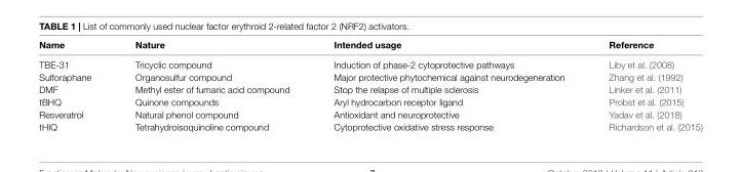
<table><thead><tr><td>Name</td><td>Nature</td><td>Intended usage</td><td>Reference</td></tr></thead><tbody><tr><td>TBE-31</td><td>Tricyclic compound</td><td>Induction of phase-2 cytoprotective pathways</td><td>Liby et al. (2008)</td></tr><tr><td>Sulforaphane</td><td>Organosulfur compound</td><td>Major protective phytochemical against neurodegeneration</td><td>Zhang et al. (1992)</td></tr><tr><td>DMF</td><td>Methyl ester of fumaric acid compound</td><td>Stop the relapse of multiple sclerosis</td><td>Linker et al. (2011)</td></tr><tr><td>tBHQ</td><td>Quinone compounds</td><td>Aryl hydrocarbon receptor ligand</td><td>Probst et al. (2015)</td></tr><tr><td>Resveratrol</td><td>Natural phenol compound</td><td>Antioxidant and neuroprotective</td><td>Yadav et al. (2018)</td></tr><tr><td>tHIQ</td><td>Tetrahydroisoquinoline compound</td><td>Cytoprotective oxidative stress response</td><td>Richardson et al. (2015)</td></tr></tbody></table>